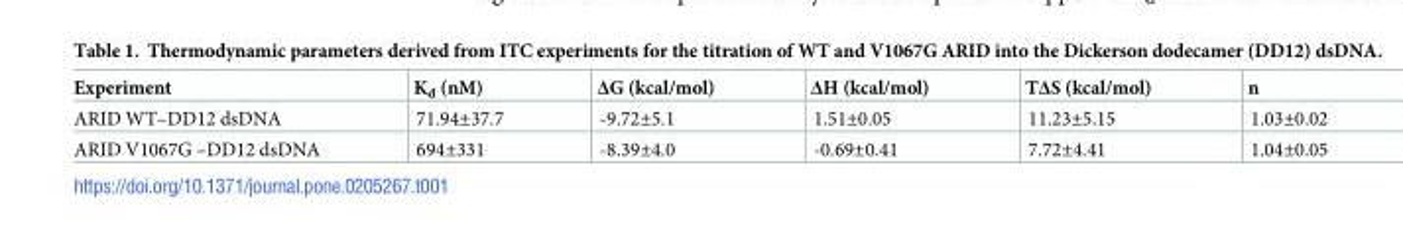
<table><thead><tr><td>Experiment</td><td>K<sub>d</sub> (nM)</td><td>ΔG (kcal/mol)</td><td>ΔH (kcal/mol)</td><td>TΔS (kcal/mol)</td><td>n</td></tr></thead><tbody><tr><td>ARID WT–DD12 dsDNA</td><td>71.94±37.7</td><td>-9.72±5.1</td><td>1.51±0.05</td><td>11.23±5.15</td><td>1.03±0.02</td></tr><tr><td>ARID V1067G –DD12 dsDNA</td><td>694±331</td><td>-8.39±4.0</td><td>-0.69±0.41</td><td>7.72±4.41</td><td>1.04±0.05</td></tr></tbody></table>